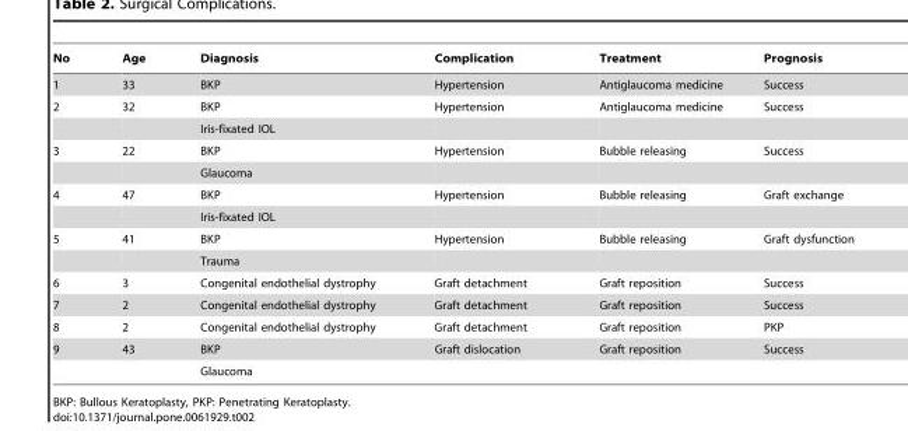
<table><thead><tr><td>No</td><td>Age</td><td>Diagnosis</td><td>Complication</td><td>Treatment</td><td>Prognosis</td></tr></thead><tbody><tr><td>1</td><td>33</td><td>BKP</td><td>Hypertension</td><td>Antiglaucoma medicine</td><td>Success</td></tr><tr><td rowspan="2">2</td><td>32</td><td>BKP</td><td>Hypertension</td><td>Antiglaucoma medicine</td><td>Success</td></tr><tr><td></td><td>Iris-fixated IOL</td><td></td><td></td><td></td></tr><tr><td rowspan="2">3</td><td>22</td><td>BKP</td><td>Hypertension</td><td>Bubble releasing</td><td>Success</td></tr><tr><td></td><td>Glaucoma</td><td></td><td></td><td></td></tr><tr><td rowspan="2">4</td><td>47</td><td>BKP</td><td>Hypertension</td><td>Bubble releasing</td><td>Graft exchange</td></tr><tr><td></td><td>Iris-fixated IOL</td><td></td><td></td><td></td></tr><tr><td rowspan="2">5</td><td>41</td><td>BKP</td><td>Hypertension</td><td>Bubble releasing</td><td>Graft dysfunction</td></tr><tr><td></td><td>Trauma</td><td></td><td></td><td></td></tr><tr><td>6</td><td>3</td><td>Congenital endothelial dystrophy</td><td>Graft detachment</td><td>Graft reposition</td><td>Success</td></tr><tr><td>7</td><td>2</td><td>Congenital endothelial dystrophy</td><td>Graft detachment</td><td>Graft reposition</td><td>Success</td></tr><tr><td>8</td><td>2</td><td>Congenital endothelial dystrophy</td><td>Graft detachment</td><td>Graft reposition</td><td>PKP</td></tr><tr><td rowspan="2">9</td><td>43</td><td>BKP</td><td>Graft dislocation</td><td>Graft reposition</td><td>Success</td></tr><tr><td></td><td>Glaucoma</td><td></td><td></td><td></td></tr></tbody></table>